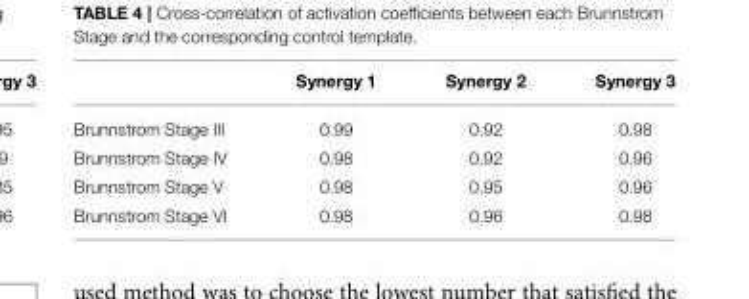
<table><thead><tr><td></td><td>Synergy 1</td><td>Synergy 2</td><td>Synergy 3</td></tr></thead><tbody><tr><td>Brunnstrom Stage III</td><td>0.99</td><td>0.92</td><td>0.98</td></tr><tr><td>Brunnstrom Stage IV</td><td>0.98</td><td>0.92</td><td>0.96</td></tr><tr><td>Brunnstrom Stage V</td><td>0.98</td><td>0.95</td><td>0.96</td></tr><tr><td>Brunnstrom Stage VI</td><td>0.98</td><td>0.96</td><td>0.98</td></tr></tbody></table>